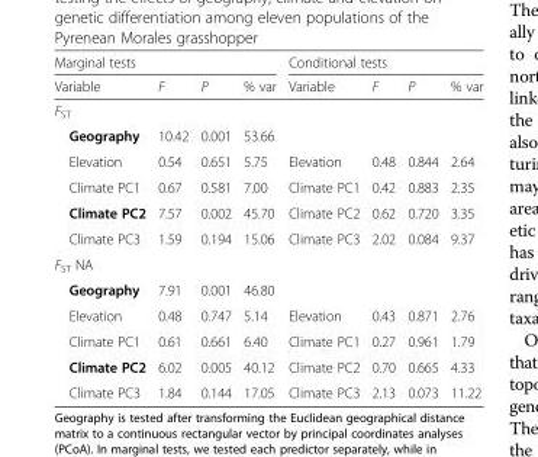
<table><thead><tr><td colspan="4">Marginal tests</td><td colspan="4">Conditional tests</td></tr><tr><td>Variable</td><td>F</td><td>P</td><td>% var</td><td>Variable</td><td>F</td><td>P</td><td>% var</td></tr></thead><tbody><tr><td colspan="8">F<sub>ST</sub></td></tr><tr><td>Geography</td><td>10.42</td><td>0.001</td><td>53.66</td><td colspan="4"></td></tr><tr><td>Elevation</td><td>0.54</td><td>0.651</td><td>5.75</td><td>Elevation</td><td>0.48</td><td>0.844</td><td>2.64</td></tr><tr><td>Climate PC1</td><td>0.67</td><td>0.581</td><td>7.00</td><td>Climate PC1</td><td>0.42</td><td>0.883</td><td>2.35</td></tr><tr><td>Climate PC2</td><td>7.57</td><td>0.002</td><td>45.70</td><td>Climate PC2</td><td>0.62</td><td>0.720</td><td>3.35</td></tr><tr><td>Climate PC3</td><td>1.59</td><td>0.194</td><td>15.06</td><td>Climate PC3</td><td>2.02</td><td>0.084</td><td>9.37</td></tr><tr><td colspan="8">F<sub>ST</sub> NA</td></tr><tr><td>Geography</td><td>7.91</td><td>0.001</td><td>46.80</td><td colspan="4"></td></tr><tr><td>Elevation</td><td>0.48</td><td>0.747</td><td>5.14</td><td>Elevation</td><td>0.43</td><td>0.871</td><td>2.76</td></tr><tr><td>Climate PC1</td><td>0.61</td><td>0.661</td><td>6.40</td><td>Climate PC1</td><td>0.27</td><td>0.961</td><td>1.79</td></tr><tr><td>Climate PC2</td><td>6.02</td><td>0.005</td><td>40.12</td><td>Climate PC2</td><td>0.70</td><td>0.665</td><td>4.33</td></tr><tr><td>Climate PC3</td><td>1.84</td><td>0.144</td><td>17.05</td><td>Climate PC3</td><td>2.13</td><td>0.073</td><td>11.22</td></tr></tbody></table>